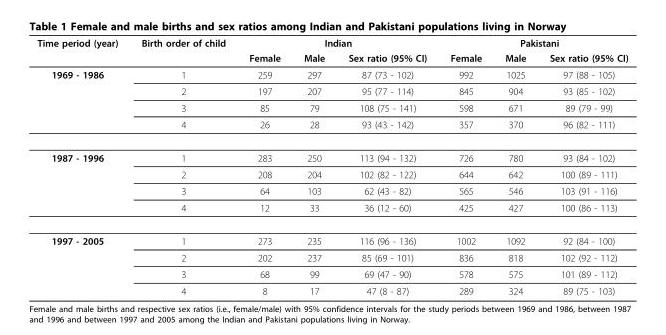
<table><thead><tr><td rowspan="2">Time period (year)</td><td rowspan="2">Birth order of child</td><td colspan="3">Indian</td><td colspan="3">Pakistani</td></tr><tr><td>Female</td><td>Male</td><td>Sex ratio (95% CI)</td><td>Female</td><td>Male</td><td>Sex ratio (95% CI)</td></tr></thead><tbody><tr><td rowspan="4">1969 - 1986</td><td>1</td><td>259</td><td>297</td><td>87 (73 - 102)</td><td>992</td><td>1025</td><td>97 (88 - 105)</td></tr><tr><td>2</td><td>197</td><td>207</td><td>95 (77 - 114)</td><td>845</td><td>904</td><td>93 (85 - 102)</td></tr><tr><td>3</td><td>85</td><td>79</td><td>108 (75 - 141)</td><td>598</td><td>671</td><td>89 (79 - 99)</td></tr><tr><td>4</td><td>26</td><td>28</td><td>93 (43 - 142)</td><td>357</td><td>370</td><td>96 (82 - 111)</td></tr><tr><td rowspan="4">1987 - 1996</td><td>1</td><td>283</td><td>250</td><td>113 (94 - 132)</td><td>726</td><td>780</td><td>93 (84 - 102)</td></tr><tr><td>2</td><td>208</td><td>204</td><td>102 (82 - 122)</td><td>644</td><td>642</td><td>100 (89 - 111)</td></tr><tr><td>3</td><td>64</td><td>103</td><td>62 (43 - 82)</td><td>565</td><td>546</td><td>103 (91 - 116)</td></tr><tr><td>4</td><td>12</td><td>33</td><td>36 (12 - 60)</td><td>425</td><td>427</td><td>100 (86 - 113)</td></tr><tr><td rowspan="4">1997 - 2005</td><td>1</td><td>273</td><td>235</td><td>116 (96 - 136)</td><td>1002</td><td>1092</td><td>92 (84 - 100)</td></tr><tr><td>2</td><td>202</td><td>237</td><td>85 (69 - 101)</td><td>836</td><td>818</td><td>102 (92 - 112)</td></tr><tr><td>3</td><td>68</td><td>99</td><td>69 (47 - 90)</td><td>578</td><td>575</td><td>101 (89 - 112)</td></tr><tr><td>4</td><td>8</td><td>17</td><td>47 (8 - 87)</td><td>289</td><td>324</td><td>89 (75 - 103)</td></tr></tbody></table>